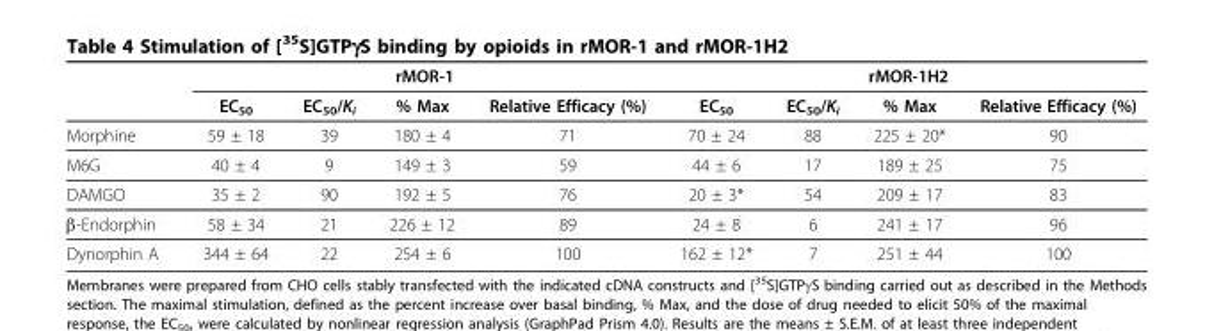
<table><thead><tr><td rowspan="2"></td><td colspan="4">rMOR-1</td><td colspan="4">rMOR-1H2</td></tr><tr><td>EC<sub>50</sub></td><td>EC<sub>50</sub>/K<sub>i</sub></td><td>% Max</td><td>Relative Efficacy (%)</td><td>EC<sub>50</sub></td><td>EC<sub>50</sub>/K<sub>i</sub></td><td>% Max</td><td>Relative Efficacy (%)</td></tr></thead><tbody><tr><td>Morphine</td><td>59 ± 18</td><td>39</td><td>180 ± 4</td><td>71</td><td>70 ± 24</td><td>88</td><td>225 ± 20*</td><td>90</td></tr><tr><td>M6G</td><td>40 ± 4</td><td>9</td><td>149 ± 3</td><td>59</td><td>44 ± 6</td><td>17</td><td>189 ± 25</td><td>75</td></tr><tr><td>DAMGO</td><td>35 ± 2</td><td>90</td><td>192 ± 5</td><td>76</td><td>20 ± 3*</td><td>54</td><td>209 ± 17</td><td>83</td></tr><tr><td>β-Endorphin</td><td>58 ± 34</td><td>21</td><td>226 ± 12</td><td>89</td><td>24 ± 8</td><td>6</td><td>241 ± 17</td><td>96</td></tr><tr><td>Dynorphin A</td><td>344 ± 64</td><td>22</td><td>254 ± 6</td><td>100</td><td>162 ± 12*</td><td>7</td><td>251 ± 44</td><td>100</td></tr></tbody></table>